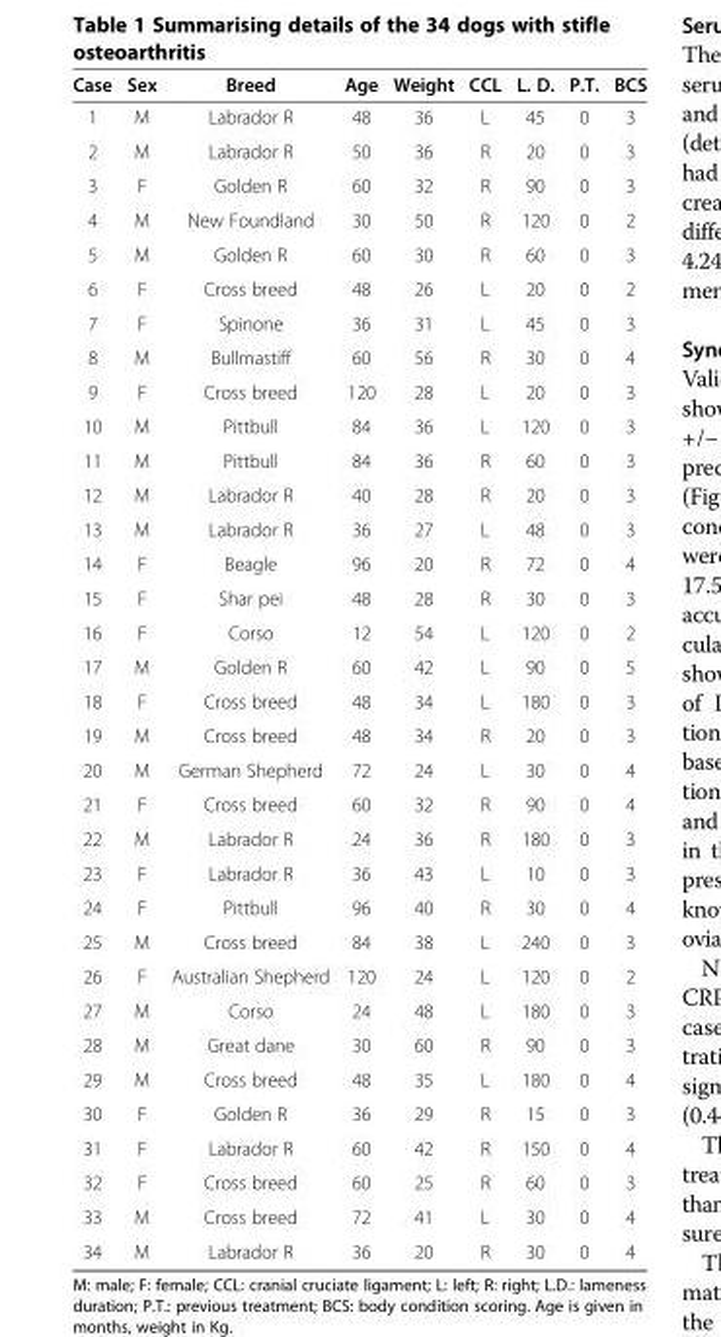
<table><thead><tr><td>Case</td><td>Sex</td><td>Breed</td><td>Age</td><td>Weight</td><td>CCL</td><td>L. D.</td><td>P.T.</td><td>BCS</td></tr></thead><tbody><tr><td>1</td><td>M</td><td>Labrador R</td><td>48</td><td>36</td><td>L</td><td>45</td><td>0</td><td>3</td></tr><tr><td>2</td><td>M</td><td>Labrador R</td><td>50</td><td>36</td><td>R</td><td>20</td><td>0</td><td>3</td></tr><tr><td>3</td><td>F</td><td>Golden R</td><td>60</td><td>32</td><td>R</td><td>90</td><td>0</td><td>3</td></tr><tr><td>4</td><td>M</td><td>New Foundland</td><td>30</td><td>50</td><td>R</td><td>120</td><td>0</td><td>2</td></tr><tr><td>5</td><td>M</td><td>Golden R</td><td>60</td><td>30</td><td>R</td><td>60</td><td>0</td><td>3</td></tr><tr><td>6</td><td>F</td><td>Cross breed</td><td>48</td><td>26</td><td>L</td><td>20</td><td>0</td><td>2</td></tr><tr><td>7</td><td>F</td><td>Spinone</td><td>36</td><td>31</td><td>L</td><td>45</td><td>0</td><td>3</td></tr><tr><td>8</td><td>M</td><td>Bullmastiff</td><td>60</td><td>56</td><td>R</td><td>30</td><td>0</td><td>4</td></tr><tr><td>9</td><td>F</td><td>Cross breed</td><td>120</td><td>28</td><td>L</td><td>20</td><td>0</td><td>3</td></tr><tr><td>10</td><td>M</td><td>Pittbull</td><td>84</td><td>36</td><td>L</td><td>120</td><td>0</td><td>3</td></tr><tr><td>11</td><td>M</td><td>Pittbull</td><td>84</td><td>36</td><td>R</td><td>60</td><td>0</td><td>3</td></tr><tr><td>12</td><td>M</td><td>Labrador R</td><td>40</td><td>28</td><td>R</td><td>20</td><td>0</td><td>3</td></tr><tr><td>13</td><td>M</td><td>Labrador R</td><td>36</td><td>27</td><td>L</td><td>48</td><td>0</td><td>3</td></tr><tr><td>14</td><td>F</td><td>Beagle</td><td>96</td><td>20</td><td>R</td><td>72</td><td>0</td><td>4</td></tr><tr><td>15</td><td>F</td><td>Shar pei</td><td>48</td><td>28</td><td>R</td><td>30</td><td>0</td><td>3</td></tr><tr><td>16</td><td>F</td><td>Corso</td><td>12</td><td>54</td><td>L</td><td>120</td><td>0</td><td>2</td></tr><tr><td>17</td><td>M</td><td>Golden R</td><td>60</td><td>42</td><td>L</td><td>90</td><td>0</td><td>5</td></tr><tr><td>18</td><td>F</td><td>Cross breed</td><td>48</td><td>34</td><td>L</td><td>180</td><td>0</td><td>3</td></tr><tr><td>19</td><td>M</td><td>Cross breed</td><td>48</td><td>34</td><td>R</td><td>20</td><td>0</td><td>3</td></tr><tr><td>20</td><td>M</td><td>German Shepherd</td><td>72</td><td>24</td><td>L</td><td>30</td><td>0</td><td>4</td></tr><tr><td>21</td><td>F</td><td>Cross breed</td><td>60</td><td>32</td><td>R</td><td>90</td><td>0</td><td>4</td></tr><tr><td>22</td><td>M</td><td>Labrador R</td><td>24</td><td>36</td><td>R</td><td>180</td><td>0</td><td>3</td></tr><tr><td>23</td><td>F</td><td>Labrador R</td><td>36</td><td>43</td><td>L</td><td>10</td><td>0</td><td>3</td></tr><tr><td>24</td><td>F</td><td>Pittbull</td><td>96</td><td>40</td><td>R</td><td>30</td><td>0</td><td>4</td></tr><tr><td>25</td><td>M</td><td>Cross breed</td><td>84</td><td>38</td><td>L</td><td>240</td><td>0</td><td>3</td></tr><tr><td>26</td><td>F</td><td>Australian Shepherd</td><td>120</td><td>24</td><td>L</td><td>120</td><td>0</td><td>2</td></tr><tr><td>27</td><td>M</td><td>Corso</td><td>24</td><td>48</td><td>L</td><td>180</td><td>0</td><td>3</td></tr><tr><td>28</td><td>M</td><td>Great dane</td><td>30</td><td>60</td><td>R</td><td>90</td><td>0</td><td>3</td></tr><tr><td>29</td><td>M</td><td>Cross breed</td><td>48</td><td>35</td><td>L</td><td>180</td><td>0</td><td>4</td></tr><tr><td>30</td><td>F</td><td>Golden R</td><td>36</td><td>29</td><td>R</td><td>15</td><td>0</td><td>3</td></tr><tr><td>31</td><td>F</td><td>Labrador R</td><td>60</td><td>42</td><td>R</td><td>150</td><td>0</td><td>4</td></tr><tr><td>32</td><td>F</td><td>Cross breed</td><td>60</td><td>25</td><td>R</td><td>60</td><td>0</td><td>3</td></tr><tr><td>33</td><td>M</td><td>Cross breed</td><td>72</td><td>41</td><td>L</td><td>30</td><td>0</td><td>4</td></tr><tr><td>34</td><td>M</td><td>Labrador R</td><td>36</td><td>20</td><td>R</td><td>30</td><td>0</td><td>4</td></tr></tbody></table>